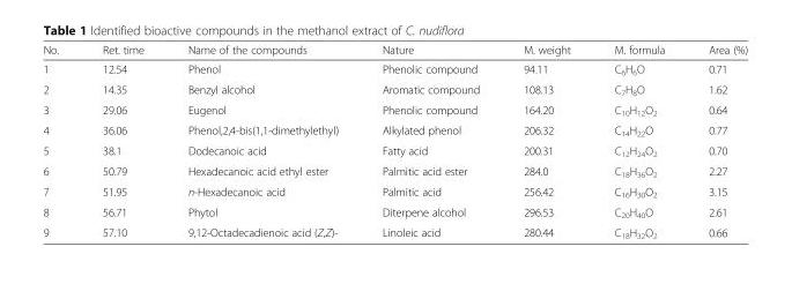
<table><thead><tr><td>No.</td><td>Ret. time</td><td>Name of the compounds</td><td>Nature</td><td>M. weight</td><td>M. formula</td><td>Area (%)</td></tr></thead><tbody><tr><td>1</td><td>12.54</td><td>Phenol</td><td>Phenolic compound</td><td>94.11</td><td>C<sub>6</sub>H<sub>6</sub>O</td><td>0.71</td></tr><tr><td>2</td><td>14.35</td><td>Benzyl alcohol</td><td>Aromatic compound</td><td>108.13</td><td>C<sub>7</sub>H<sub>8</sub>O</td><td>1.62</td></tr><tr><td>3</td><td>29.06</td><td>Eugenol</td><td>Phenolic compound</td><td>164.20</td><td>C<sub>10</sub>H<sub>12</sub>O<sub>2</sub></td><td>0.64</td></tr><tr><td>4</td><td>36.06</td><td>Phenol,2,4-bis(1,1-dimethylethyl)</td><td>Alkylated phenol</td><td>206.32</td><td>C<sub>14</sub>H<sub>22</sub>O</td><td>0.77</td></tr><tr><td>5</td><td>38.1</td><td>Dodecanoic acid</td><td>Fatty acid</td><td>200.31</td><td>C<sub>12</sub>H<sub>24</sub>O<sub>2</sub></td><td>0.70</td></tr><tr><td>6</td><td>50.79</td><td>Hexadecanoic acid ethyl ester</td><td>Palmitic acid ester</td><td>284.0</td><td>C<sub>18</sub>H<sub>36</sub>O<sub>2</sub></td><td>2.27</td></tr><tr><td>7</td><td>51.95</td><td>n-Hexadecanoic acid</td><td>Palmitic acid</td><td>256.42</td><td>C<sub>16</sub>H<sub>30</sub>O<sub>2</sub></td><td>3.15</td></tr><tr><td>8</td><td>56.71</td><td>Phytol</td><td>Diterpene alcohol</td><td>296.53</td><td>C<sub>20</sub>H<sub>40</sub>O</td><td>2.61</td></tr><tr><td>9</td><td>57.10</td><td>9,12-Octadecadienoic acid (Z,Z)-</td><td>Linoleic acid</td><td>280.44</td><td>C<sub>18</sub>H<sub>32</sub>O<sub>2</sub></td><td>0.66</td></tr></tbody></table>